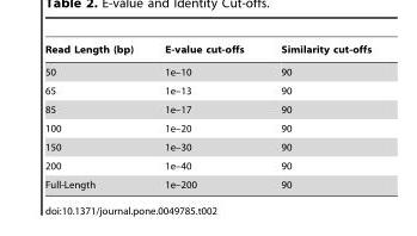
<table><thead><tr><td>Read Length (bp)</td><td>E-value cut-offs</td><td>Similarity cut-offs</td></tr></thead><tbody><tr><td>50</td><td>1e–10</td><td>90</td></tr><tr><td>65</td><td>1e–13</td><td>90</td></tr><tr><td>85</td><td>1e–17</td><td>90</td></tr><tr><td>100</td><td>1e–20</td><td>90</td></tr><tr><td>150</td><td>1e–30</td><td>90</td></tr><tr><td>200</td><td>1e–40</td><td>90</td></tr><tr><td>Full-Length</td><td>1e–200</td><td>90</td></tr></tbody></table>